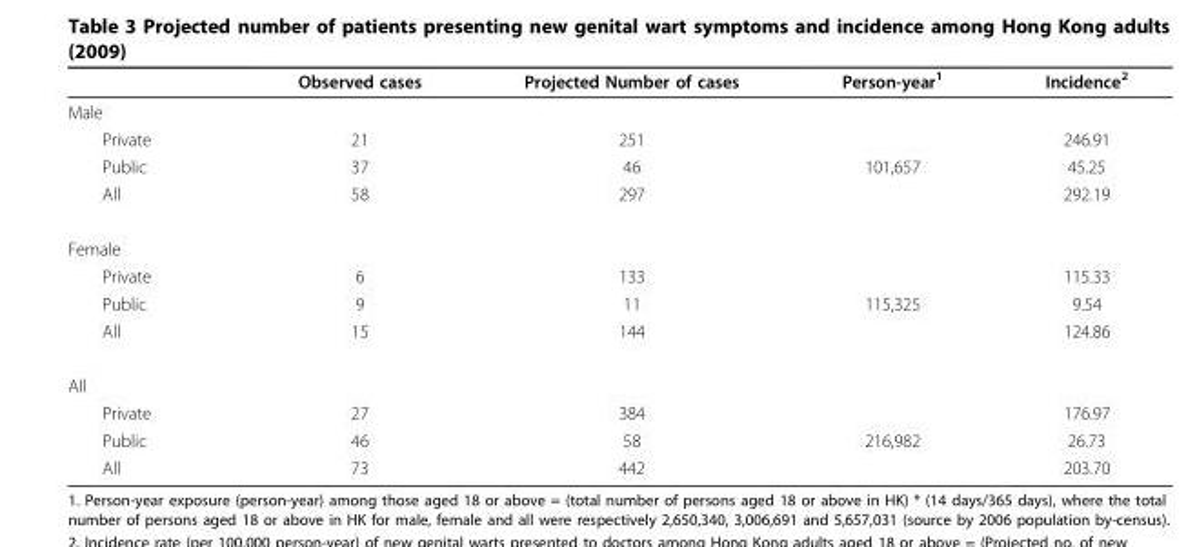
<table><thead><tr><td></td><td>Observed cases</td><td>Projected Number of cases</td><td>Person-year<sup>1</sup></td><td>Incidence<sup>2</sup></td></tr></thead><tbody><tr><td colspan="5">Male</td></tr><tr><td>Private</td><td>21</td><td>251</td><td></td><td>246.91</td></tr><tr><td>Public</td><td>37</td><td>46</td><td>101,657</td><td>45.25</td></tr><tr><td>All</td><td>58</td><td>297</td><td></td><td>292.19</td></tr><tr><td colspan="5">Female</td></tr><tr><td>Private</td><td>6</td><td>133</td><td></td><td>115.33</td></tr><tr><td>Public</td><td>9</td><td>11</td><td>115,325</td><td>9.54</td></tr><tr><td>All</td><td>15</td><td>144</td><td></td><td>124.86</td></tr><tr><td colspan="5">All</td></tr><tr><td>Private</td><td>27</td><td>384</td><td></td><td>176.97</td></tr><tr><td>Public</td><td>46</td><td>58</td><td>216,982</td><td>26.73</td></tr><tr><td>All</td><td>73</td><td>442</td><td></td><td>203.70</td></tr></tbody></table>